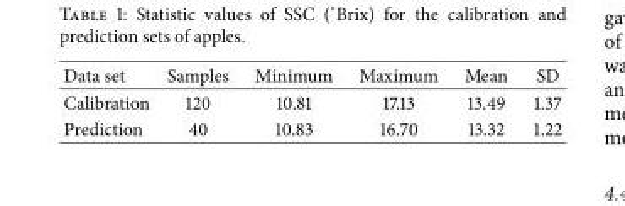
<table><thead><tr><td>Data set</td><td>Samples</td><td>Minimum</td><td>Maximum</td><td>Mean</td><td>SD</td></tr></thead><tbody><tr><td>Calibration</td><td>120</td><td>10.81</td><td>17.13</td><td>13.49</td><td>1.37</td></tr><tr><td>Prediction</td><td>40</td><td>10.83</td><td>16.70</td><td>13.32</td><td>1.22</td></tr></tbody></table>